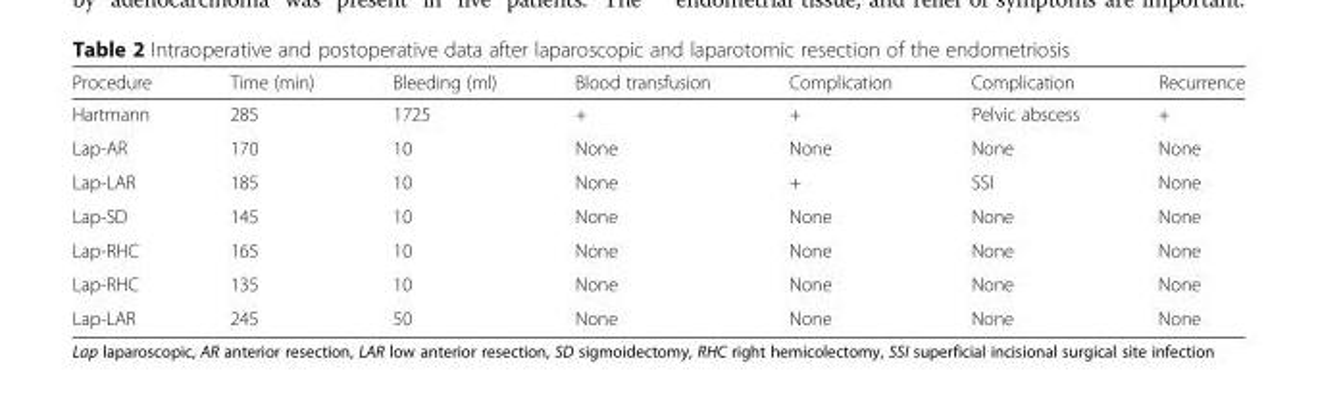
<table><thead><tr><td>Procedure</td><td>Time (min)</td><td>Bleeding (ml)</td><td>Blood transfusion</td><td>Complication</td><td>Complication</td><td>Recurrence</td></tr></thead><tbody><tr><td>Hartmann</td><td>285</td><td>1725</td><td>+</td><td>+</td><td>Pelvic abscess</td><td>+</td></tr><tr><td>Lap-AR</td><td>170</td><td>10</td><td>None</td><td>None</td><td>None</td><td>None</td></tr><tr><td>Lap-LAR</td><td>185</td><td>10</td><td>None</td><td>+</td><td>SSI</td><td>None</td></tr><tr><td>Lap-SD</td><td>145</td><td>10</td><td>None</td><td>None</td><td>None</td><td>None</td></tr><tr><td>Lap-RHC</td><td>165</td><td>10</td><td>None</td><td>None</td><td>None</td><td>None</td></tr><tr><td>Lap-RHC</td><td>135</td><td>10</td><td>None</td><td>None</td><td>None</td><td>None</td></tr><tr><td>Lap-LAR</td><td>245</td><td>50</td><td>None</td><td>None</td><td>None</td><td>None</td></tr></tbody></table>